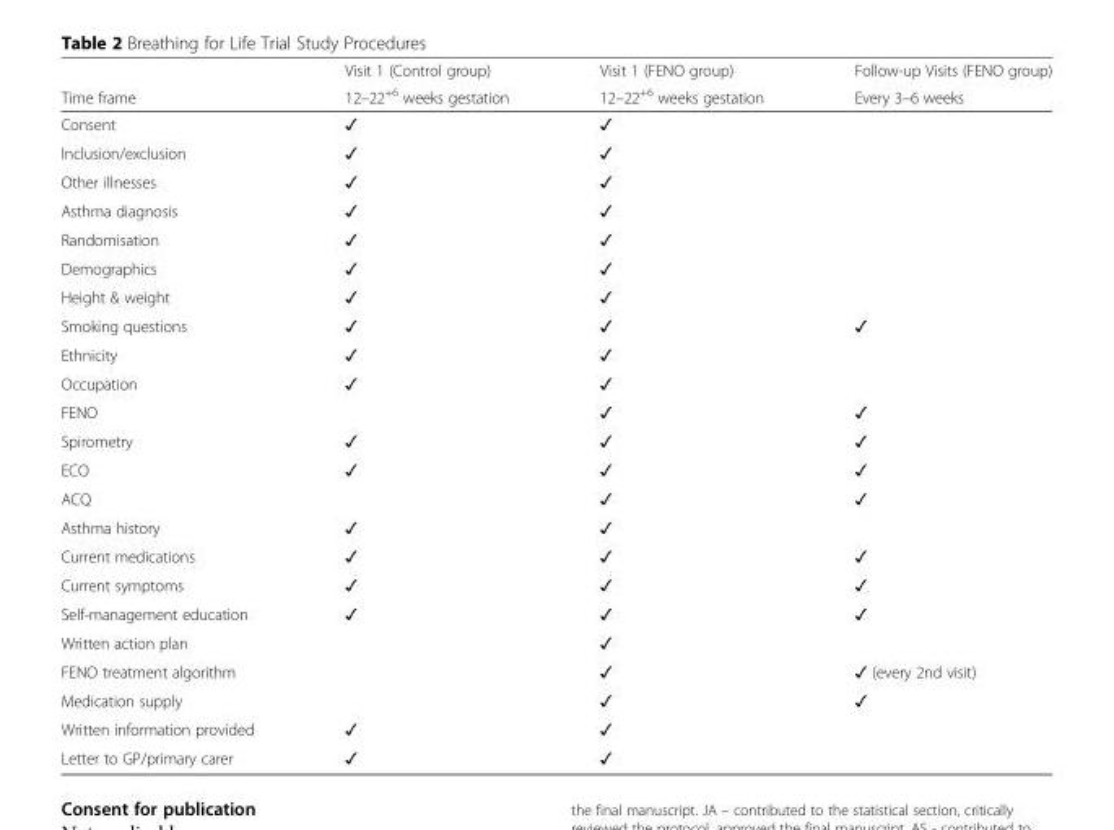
<table><thead><tr><td rowspan="2">Time frame</td><td rowspan="2">Visit 1 (Control group) 12–22<sup>+6</sup> weeks gestation</td><td rowspan="2">Visit 1 (FENO group) 12–22<sup>+6</sup> weeks gestation</td><td rowspan="2">Follow-up Visits (FENO group) Every 3–6 weeks</td></tr><tr></tr></thead><tbody><tr><td>Consent</td><td>✓</td><td>✓</td><td></td></tr><tr><td>Inclusion/exclusion</td><td>✓</td><td>✓</td><td></td></tr><tr><td>Other illnesses</td><td>✓</td><td>✓</td><td></td></tr><tr><td>Asthma diagnosis</td><td>✓</td><td>✓</td><td></td></tr><tr><td>Randomisation</td><td>✓</td><td>✓</td><td></td></tr><tr><td>Demographics</td><td>✓</td><td>✓</td><td></td></tr><tr><td>Height &amp; weight</td><td>✓</td><td>✓</td><td></td></tr><tr><td>Smoking questions</td><td>✓</td><td>✓</td><td>✓</td></tr><tr><td>Ethnicity</td><td>✓</td><td>✓</td><td></td></tr><tr><td>Occupation</td><td>✓</td><td>✓</td><td></td></tr><tr><td>FENO</td><td></td><td>✓</td><td>✓</td></tr><tr><td>Spirometry</td><td>✓</td><td>✓</td><td>✓</td></tr><tr><td>ECO</td><td>✓</td><td>✓</td><td>✓</td></tr><tr><td>ACQ</td><td></td><td>✓</td><td>✓</td></tr><tr><td>Asthma history</td><td>✓</td><td>✓</td><td></td></tr><tr><td>Current medications</td><td>✓</td><td>✓</td><td>✓</td></tr><tr><td>Current symptoms</td><td>✓</td><td>✓</td><td>✓</td></tr><tr><td>Self-management education</td><td>✓</td><td>✓</td><td>✓</td></tr><tr><td>Written action plan</td><td></td><td>✓</td><td></td></tr><tr><td>FENO treatment algorithm</td><td></td><td>✓</td><td>✓ (every 2nd visit)</td></tr><tr><td>Medication supply</td><td></td><td>✓</td><td>✓</td></tr><tr><td>Written information provided</td><td>✓</td><td>✓</td><td></td></tr><tr><td>Letter to GP/primary carer</td><td>✓</td><td>✓</td><td></td></tr></tbody></table>